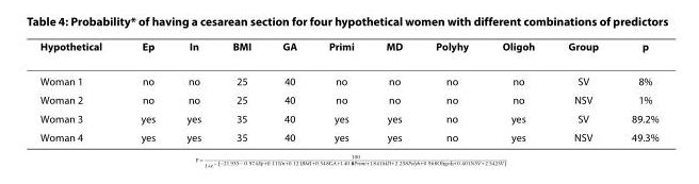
<table><thead><tr><td>Hypothetical</td><td>Ep</td><td>In</td><td>BMI</td><td>GA</td><td>Primi</td><td>MD</td><td>Polyhy</td><td>Oligoh</td><td>Group</td><td>p</td></tr></thead><tbody><tr><td>Woman 1</td><td>no</td><td>no</td><td>25</td><td>40</td><td>no</td><td>no</td><td>no</td><td>no</td><td>SV</td><td>8%</td></tr><tr><td>Woman 2</td><td>no</td><td>no</td><td>25</td><td>40</td><td>no</td><td>no</td><td>no</td><td>no</td><td>NSV</td><td>1%</td></tr><tr><td>Woman 3</td><td>yes</td><td>yes</td><td>35</td><td>40</td><td>yes</td><td>yes</td><td>no</td><td>yes</td><td>SV</td><td>89.2%</td></tr><tr><td>Woman 4</td><td>yes</td><td>yes</td><td>35</td><td>40</td><td>yes</td><td>yes</td><td>no</td><td>yes</td><td>NSV</td><td>49.3%</td></tr></tbody></table>